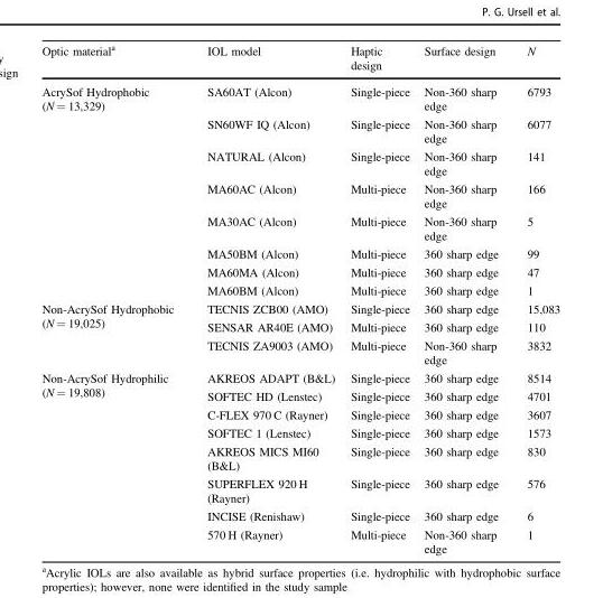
<table><thead><tr><td>Optic material<sup>a</sup></td><td>IOL model</td><td>Haptic design</td><td>Surface design</td><td>N</td></tr></thead><tbody><tr><td rowspan="8">AcrySof Hydrophobic (N = 13,329)</td><td>SA60AT (Alcon)</td><td>Single-piece</td><td>Non-360 sharp edge</td><td>6793</td></tr><tr><td>SN60WF IQ (Alcon)</td><td>Single-piece</td><td>Non-360 sharp edge</td><td>6077</td></tr><tr><td>NATURAL (Alcon)</td><td>Single-piece</td><td>Non-360 sharp edge</td><td>141</td></tr><tr><td>MA60AC (Alcon)</td><td>Multi-piece</td><td>Non-360 sharp edge</td><td>166</td></tr><tr><td>MA30AC (Alcon)</td><td>Multi-piece</td><td>Non-360 sharp edge</td><td>5</td></tr><tr><td>MA50BM (Alcon)</td><td>Multi-piece</td><td>360 sharp edge</td><td>99</td></tr><tr><td>MA60MA (Alcon)</td><td>Multi-piece</td><td>360 sharp edge</td><td>47</td></tr><tr><td>MA60BM (Alcon)</td><td>Multi-piece</td><td>360 sharp edge</td><td>1</td></tr><tr><td rowspan="3">Non-AcrySof Hydrophobic (N = 19,025)</td><td>TECNIS ZCB00 (AMO)</td><td>Single-piece</td><td>360 sharp edge</td><td>15,083</td></tr><tr><td>SENSAR AR40E (AMO)</td><td>Multi-piece</td><td>360 sharp edge</td><td>110</td></tr><tr><td>TECNIS ZA9003 (AMO)</td><td>Multi-piece</td><td>Non-360 sharp edge</td><td>3832</td></tr><tr><td rowspan="8">Non-AcrySof Hydrophilic (N = 19,808)</td><td>AKREOS ADAPT (B&amp;L)</td><td>Single-piece</td><td>360 sharp edge</td><td>8514</td></tr><tr><td>SOFTEC HD (Lenstec)</td><td>Single-piece</td><td>360 sharp edge</td><td>4701</td></tr><tr><td>C-FLEX 970 C (Rayner)</td><td>Single-piece</td><td>360 sharp edge</td><td>3607</td></tr><tr><td>SOFTEC 1 (Lenstec)</td><td>Single-piece</td><td>360 sharp edge</td><td>1573</td></tr><tr><td>AKREOS MICS MI60 (B&amp;L)</td><td>Single-piece</td><td>360 sharp edge</td><td>830</td></tr><tr><td>SUPERFLEX 920 H (Rayner)</td><td>Single-piece</td><td>360 sharp edge</td><td>576</td></tr><tr><td>INCISE (Renishaw)</td><td>Single-piece</td><td>360 sharp edge</td><td>6</td></tr><tr><td>570 H (Rayner)</td><td>Multi-piece</td><td>Non-360 sharp edge</td><td>1</td></tr></tbody></table>